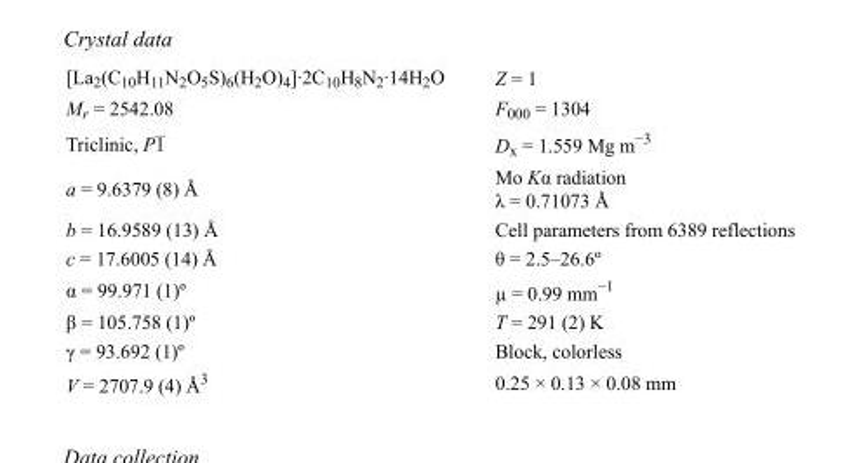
<table><tbody><tr><td>[La<sub>2</sub>(C<sub>10</sub>H<sub>11</sub>N<sub>2</sub>O<sub>5</sub>S)<sub>6</sub>(H<sub>2</sub>O)<sub>4</sub>]·2C<sub>10</sub>H<sub>8</sub>N<sub>2</sub>·14H<sub>2</sub>O</td><td>Z = 1</td></tr><tr><td>M<sub>r</sub> = 2542.08</td><td>F000 = 1304</td></tr><tr><td>Triclinic, P1</td><td>D<sub>x</sub> = 1.559 Mg m<sup>−3</sup></td></tr><tr><td>a = 9.6379 (8) Å</td><td>Mo Kα radiation λ = 0.71073 Å</td></tr><tr><td>b = 16.9589 (13) Å</td><td>Cell parameters from 6389 reflections</td></tr><tr><td>c = 17.6005 (14) Å</td><td>θ = 2.5–26.6º</td></tr><tr><td>α = 99.971 (1)º</td><td>µ = 0.99 mm<sup>−1</sup></td></tr><tr><td>β = 105.758 (1)º</td><td>T = 291 (2) K</td></tr><tr><td>γ = 93.692 (1)º</td><td>Block, colorless</td></tr><tr><td>V = 2707.9 (4) Å<sup>3</sup></td><td>0.25 × 0.13 × 0.08 mm</td></tr></tbody></table>